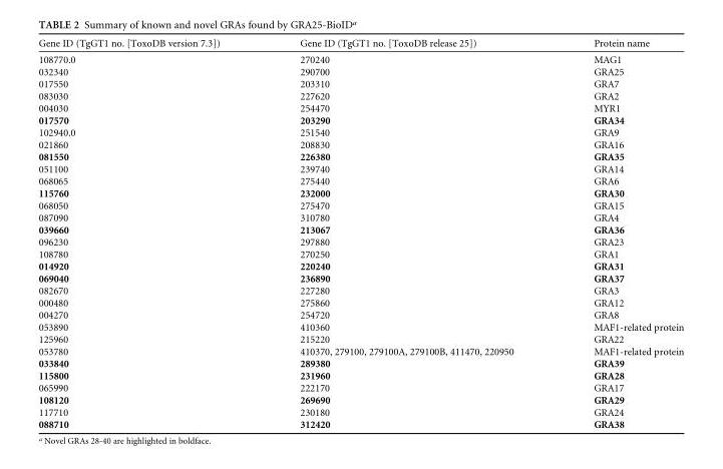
<table><thead><tr><td>Gene ID (TgGT1 no. [ToxoDB version 7.3])</td><td>Gene ID (TgGT1 no. [ToxoDB release 25])</td><td>Protein name</td></tr></thead><tbody><tr><td>108770.0</td><td>270240</td><td>MAG1</td></tr><tr><td>032340</td><td>290700</td><td>GRA25</td></tr><tr><td>017550</td><td>203310</td><td>GRA7</td></tr><tr><td>083030</td><td>227620</td><td>GRA2</td></tr><tr><td>004030</td><td>254470</td><td>MYR1</td></tr><tr><td>017570</td><td>203290</td><td>GRA34</td></tr><tr><td>102940.0</td><td>251540</td><td>GRA9</td></tr><tr><td>021860</td><td>208830</td><td>GRA16</td></tr><tr><td>081550</td><td>226380</td><td>GRA35</td></tr><tr><td>051100</td><td>239740</td><td>GRA14</td></tr><tr><td>068065</td><td>275440</td><td>GRA6</td></tr><tr><td>115760</td><td>232000</td><td>GRA30</td></tr><tr><td>068050</td><td>275470</td><td>GRA15</td></tr><tr><td>087090</td><td>310780</td><td>GRA4</td></tr><tr><td>039660</td><td>213067</td><td>GRA36</td></tr><tr><td>096230</td><td>297880</td><td>GRA23</td></tr><tr><td>108780</td><td>270250</td><td>GRA1</td></tr><tr><td>014920</td><td>220240</td><td>GRA31</td></tr><tr><td>069040</td><td>236890</td><td>GRA37</td></tr><tr><td>082670</td><td>227280</td><td>GRA3</td></tr><tr><td>000480</td><td>275860</td><td>GRA12</td></tr><tr><td>004270</td><td>254720</td><td>GRA8</td></tr><tr><td>053890</td><td>410360</td><td>MAF1-related protein</td></tr><tr><td>125960</td><td>215220</td><td>GRA22</td></tr><tr><td>053780</td><td>410370, 279100, 279100A, 279100B, 411470, 220950</td><td>MAF1-related protein</td></tr><tr><td>033840</td><td>289380</td><td>GRA39</td></tr><tr><td>115800</td><td>231960</td><td>GRA28</td></tr><tr><td>065990</td><td>222170</td><td>GRA17</td></tr><tr><td>108120</td><td>269690</td><td>GRA29</td></tr><tr><td>117710</td><td>230180</td><td>GRA24</td></tr><tr><td>088710</td><td>312420</td><td>GRA38</td></tr></tbody></table>